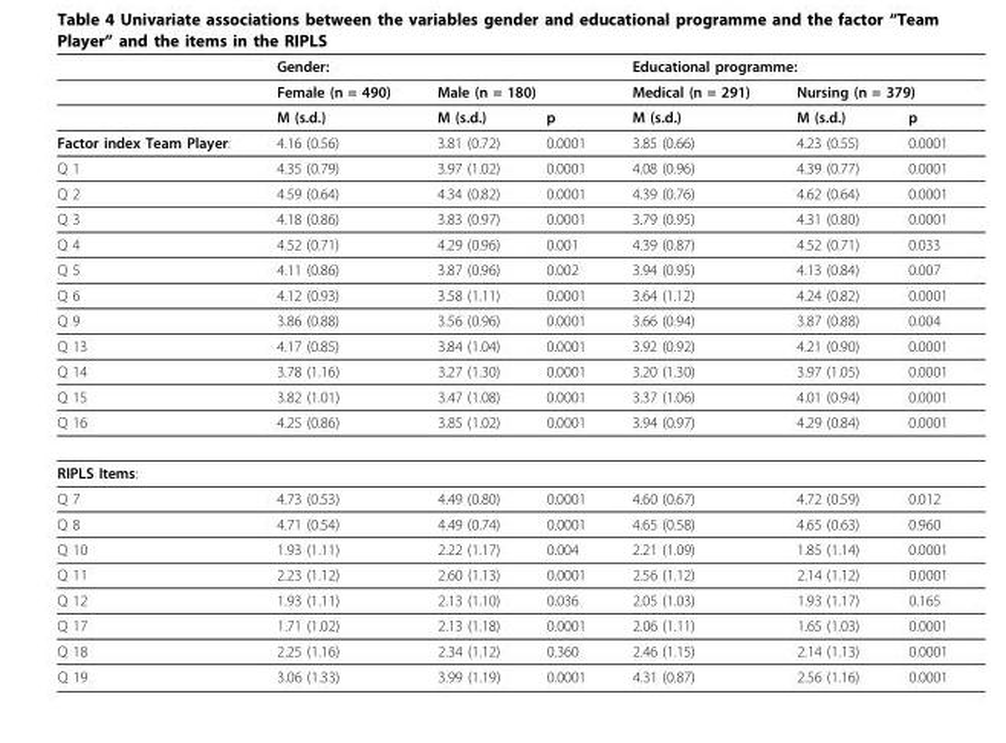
<table><thead><tr><td rowspan="3"></td><td colspan="3">Gender:</td><td colspan="3">Educational programme:</td></tr><tr><td rowspan="2">Female (n = 490) M (s.d.)</td><td colspan="2">Male (n = 180)</td><td rowspan="2">Medical (n = 291) M (s.d.)</td><td colspan="2">Nursing (n = 379)</td></tr><tr><td>M (s.d.)</td><td>p</td><td>M (s.d.)</td><td>p</td></tr></thead><tbody><tr><td>Factor index Team Player:</td><td>4.16 (0.56)</td><td>3.81 (0.72)</td><td>0.0001</td><td>3.85 (0.66)</td><td>4.23 (0.55)</td><td>0.0001</td></tr><tr><td>Q 1</td><td>4.35 (0.79)</td><td>3.97 (1.02)</td><td>0.0001</td><td>4.08 (0.96)</td><td>4.39 (0.77)</td><td>0.0001</td></tr><tr><td>Q 2</td><td>4.59 (0.64)</td><td>4.34 (0.82)</td><td>0.0001</td><td>4.39 (0.76)</td><td>4.62 (0.64)</td><td>0.0001</td></tr><tr><td>Q 3</td><td>4.18 (0.86)</td><td>3.83 (0.97)</td><td>0.0001</td><td>3.79 (0.95)</td><td>4.31 (0.80)</td><td>0.0001</td></tr><tr><td>Q 4</td><td>4.52 (0.71)</td><td>4.29 (0.96)</td><td>0.001</td><td>4.39 (0.87)</td><td>4.52 (0.71)</td><td>0.033</td></tr><tr><td>Q 5</td><td>4.11 (0.86)</td><td>3.87 (0.96)</td><td>0.002</td><td>3.94 (0.95)</td><td>4.13 (0.84)</td><td>0.007</td></tr><tr><td>Q 6</td><td>4.12 (0.93)</td><td>3.58 (1.11)</td><td>0.0001</td><td>3.64 (1.12)</td><td>4.24 (0.82)</td><td>0.0001</td></tr><tr><td>Q 9</td><td>3.86 (0.88)</td><td>3.56 (0.96)</td><td>0.0001</td><td>3.66 (0.94)</td><td>3.87 (0.88)</td><td>0.004</td></tr><tr><td>Q 13</td><td>4.17 (0.85)</td><td>3.84 (1.04)</td><td>0.0001</td><td>3.92 (0.92)</td><td>4.21 (0.90)</td><td>0.0001</td></tr><tr><td>Q 14</td><td>3.78 (1.16)</td><td>3.27 (1.30)</td><td>0.0001</td><td>3.20 (1.30)</td><td>3.97 (1.05)</td><td>0.0001</td></tr><tr><td>Q 15</td><td>3.82 (1.01)</td><td>3.47 (1.08)</td><td>0.0001</td><td>3.37 (1.06)</td><td>4.01 (0.94)</td><td>0.0001</td></tr><tr><td>Q 16</td><td>4.25 (0.86)</td><td>3.85 (1.02)</td><td>0.0001</td><td>3.94 (0.97)</td><td>4.29 (0.84)</td><td>0.0001</td></tr><tr><td colspan="7">RIPLS Items:</td></tr><tr><td>Q 7</td><td>4.73 (0.53)</td><td>4.49 (0.80)</td><td>0.0001</td><td>4.60 (0.67)</td><td>4.72 (0.59)</td><td>0.012</td></tr><tr><td>Q 8</td><td>4.71 (0.54)</td><td>4.49 (0.74)</td><td>0.0001</td><td>4.65 (0.58)</td><td>4.65 (0.63)</td><td>0.960</td></tr><tr><td>Q 10</td><td>1.93 (1.11)</td><td>2.22 (1.17)</td><td>0.004</td><td>2.21 (1.09)</td><td>1.85 (1.14)</td><td>0.0001</td></tr><tr><td>Q 11</td><td>2.23 (1.12)</td><td>2.60 (1.13)</td><td>0.0001</td><td>2.56 (1.12)</td><td>2.14 (1.12)</td><td>0.0001</td></tr><tr><td>Q 12</td><td>1.93 (1.11)</td><td>2.13 (1.10)</td><td>0.036</td><td>2.05 (1.03)</td><td>1.93 (1.17)</td><td>0.165</td></tr><tr><td>Q 17</td><td>1.71 (1.02)</td><td>2.13 (1.18)</td><td>0.0001</td><td>2.06 (1.11)</td><td>1.65 (1.03)</td><td>0.0001</td></tr><tr><td>Q 18</td><td>2.25 (1.16)</td><td>2.34 (1.12)</td><td>0.360</td><td>2.46 (1.15)</td><td>2.14 (1.13)</td><td>0.0001</td></tr><tr><td>Q 19</td><td>3.06 (1.33)</td><td>3.99 (1.19)</td><td>0.0001</td><td>4.31 (0.87)</td><td>2.56 (1.16)</td><td>0.0001</td></tr></tbody></table>